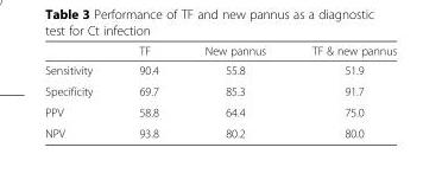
<table><thead><tr><td></td><td>TF</td><td>New pannus</td><td>TF &amp; new pannus</td></tr></thead><tbody><tr><td>Sensitivity</td><td>90.4</td><td>55.8</td><td>51.9</td></tr><tr><td>Specificity</td><td>69.7</td><td>85.3</td><td>91.7</td></tr><tr><td>PPV</td><td>58.8</td><td>64.4</td><td>75.0</td></tr><tr><td>NPV</td><td>93.8</td><td>80.2</td><td>80.0</td></tr></tbody></table>